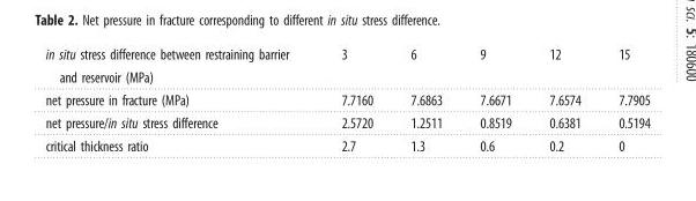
<table><tbody><tr><td>in situ stress difference between restraining barrier and reservoir (MPa)</td><td>3</td><td>6</td><td>9</td><td>12</td><td>15</td></tr><tr><td>net pressure in fracture (MPa)</td><td>7.7160</td><td>7.6863</td><td>7.6671</td><td>7.6574</td><td>7.7905</td></tr><tr><td>net pressure/in situ stress difference</td><td>2.5720</td><td>1.2511</td><td>0.8519</td><td>0.6381</td><td>0.5194</td></tr><tr><td>critical thickness ratio</td><td>2.7</td><td>1.3</td><td>0.6</td><td>0.2</td><td>0</td></tr></tbody></table>